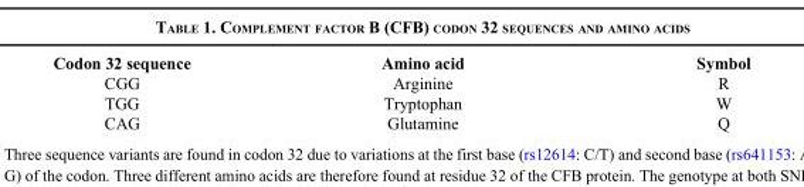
<table><thead><tr><td>Codon 32 sequence</td><td>Amino acid</td><td>Symbol</td></tr></thead><tbody><tr><td>CGG</td><td>Arginine</td><td>R</td></tr><tr><td>TGG</td><td>Tryptophan</td><td>W</td></tr><tr><td>CAG</td><td>Glutamine</td><td>Q</td></tr></tbody></table>